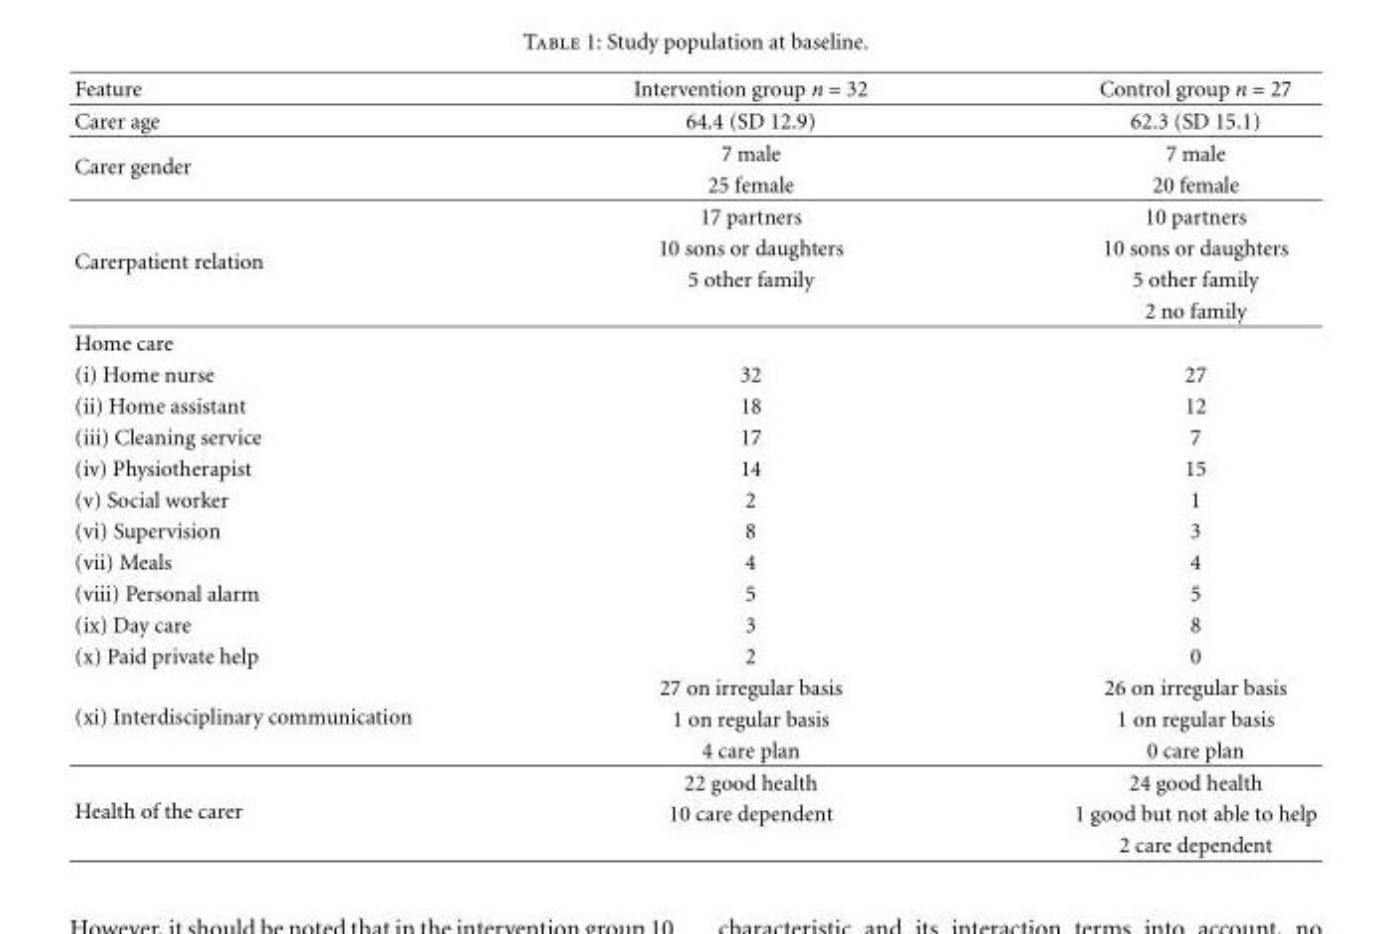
<table><thead><tr><td>Feature</td><td>Intervention group n = 32</td><td>Control group n = 27</td></tr></thead><tbody><tr><td>Carer age</td><td>64.4 (SD 12.9)</td><td>62.3 (SD 15.1)</td></tr><tr><td rowspan="2">Carer gender</td><td>7 male</td><td>7 male</td></tr><tr><td>25 female</td><td>20 female</td></tr><tr><td rowspan="4">Carerpatient relation</td><td>17 partners</td><td>10 partners</td></tr><tr><td>10 sons or daughters</td><td>10 sons or daughters</td></tr><tr><td>5 other family</td><td>5 other family</td></tr><tr><td></td><td>2 no family</td></tr><tr><td colspan="3">Home care</td></tr><tr><td>(i) Home nurse</td><td>32</td><td>27</td></tr><tr><td>(ii) Home assistant</td><td>18</td><td>12</td></tr><tr><td>(iii) Cleaning service</td><td>17</td><td>7</td></tr><tr><td>(iv) Physiotherapist</td><td>14</td><td>15</td></tr><tr><td>(v) Social worker</td><td>2</td><td>1</td></tr><tr><td>(vi) Supervision</td><td>8</td><td>3</td></tr><tr><td>(vii) Meals</td><td>4</td><td>4</td></tr><tr><td>(viii) Personal alarm</td><td>5</td><td>5</td></tr><tr><td>(ix) Day care</td><td>3</td><td>8</td></tr><tr><td>(x) Paid private help</td><td>2</td><td>0</td></tr><tr><td rowspan="3">(xi) Interdisciplinary communication</td><td>27 on irregular basis</td><td>26 on irregular basis</td></tr><tr><td>1 on regular basis</td><td>1 on regular basis</td></tr><tr><td>4 care plan</td><td>0 care plan</td></tr><tr><td rowspan="3">Health of the carer</td><td>22 good health</td><td>24 good health</td></tr><tr><td>10 care dependent</td><td>1 good but not able to help</td></tr><tr><td></td><td>2 care dependent</td></tr></tbody></table>